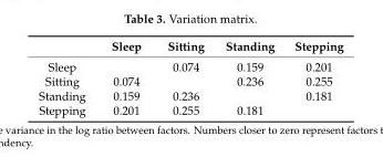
<table><thead><tr><td></td><td>Sleep</td><td>Sitting</td><td>Standing</td><td>Stepping</td></tr></thead><tbody><tr><td>Sleep</td><td></td><td>0.074</td><td>0.159</td><td>0.201</td></tr><tr><td>Sitting</td><td>0.074</td><td></td><td>0.236</td><td>0.255</td></tr><tr><td>Standing</td><td>0.159</td><td>0.236</td><td></td><td>0.181</td></tr><tr><td>Stepping</td><td>0.201</td><td>0.255</td><td>0.181</td><td></td></tr></tbody></table>